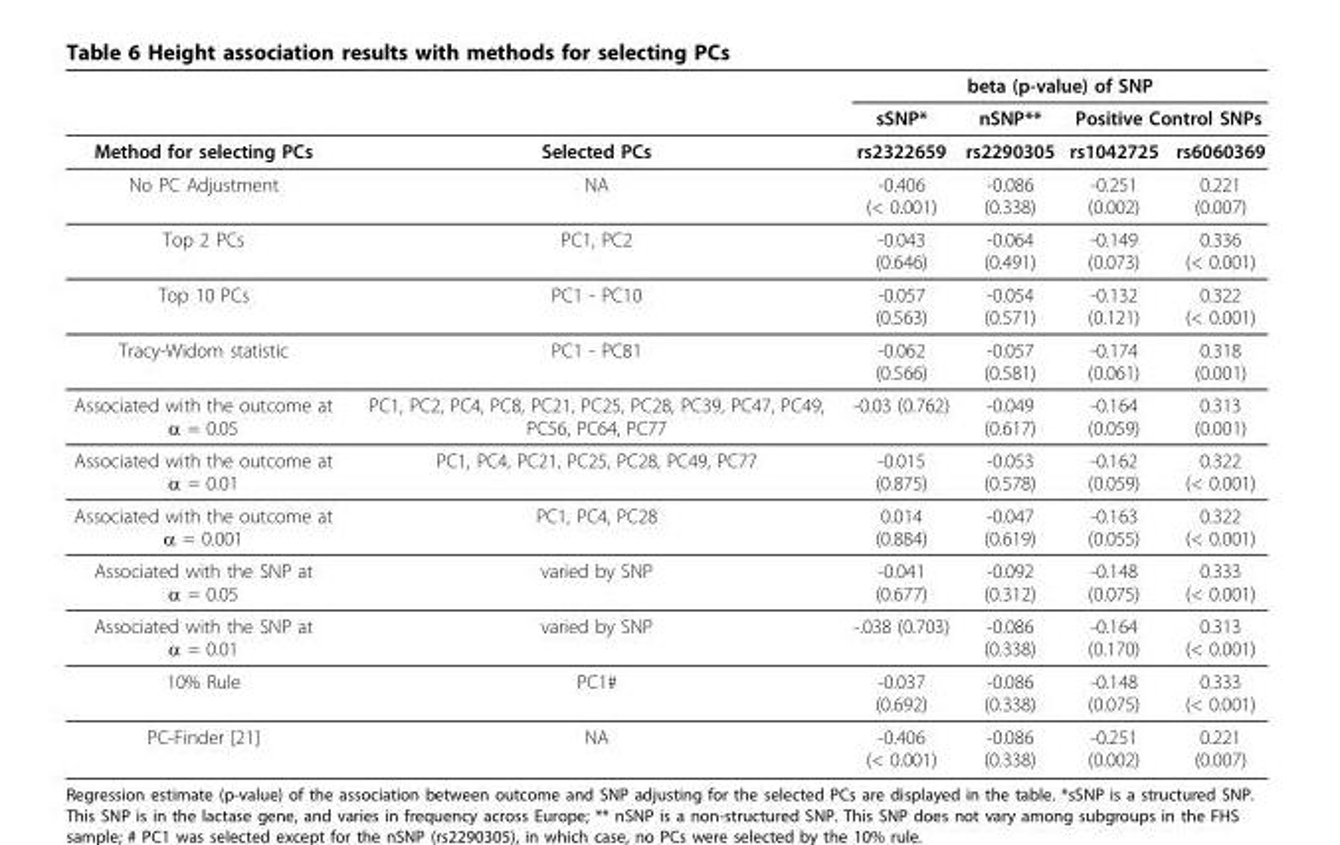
<table><thead><tr><td rowspan="3">Method for selecting PCs</td><td rowspan="3">Selected PCs</td><td colspan="4">beta (p-value) of SNP</td></tr><tr><td rowspan="2">sSNP* rs2322659</td><td rowspan="2">nSNP** rs2290305</td><td colspan="2">Positive Control SNPs</td></tr><tr><td>rs1042725</td><td>rs6060369</td></tr></thead><tbody><tr><td>No PC Adjustment</td><td>NA</td><td>-0.406 (&lt; 0.001)</td><td>-0.086 (0.338)</td><td>-0.251 (0.002)</td><td>0.221 (0.007)</td></tr><tr><td>Top 2 PCs</td><td>PC1, PC2</td><td>-0.043 (0.646)</td><td>-0.064 (0.491)</td><td>-0.149 (0.073)</td><td>0.336 (&lt; 0.001)</td></tr><tr><td>Top 10 PCs</td><td>PC1 - PC10</td><td>-0.057 (0.563)</td><td>-0.054 (0.571)</td><td>-0.132 (0.121)</td><td>0.322 (&lt; 0.001)</td></tr><tr><td>Tracy-Widom statistic</td><td>PC1 - PC81</td><td>-0.062 (0.566)</td><td>-0.057 (0.581)</td><td>-0.174 (0.061)</td><td>0.318 (0.001)</td></tr><tr><td>Associated with the outcome at α = 0.05</td><td>PC1, PC2, PC4, PC8, PC21, PC25, PC28, PC39, PC47, PC49, PC56, PC64, PC77</td><td>-0.03 (0.762)</td><td>-0.049 (0.617)</td><td>-0.164 (0.059)</td><td>0.313 (0.001)</td></tr><tr><td>Associated with the outcome at α = 0.01</td><td>PC1, PC4, PC21, PC25, PC28, PC49, PC77</td><td>-0.015 (0.875)</td><td>-0.053 (0.578)</td><td>-0.162 (0.059)</td><td>0.322 (&lt; 0.001)</td></tr><tr><td>Associated with the outcome at α = 0.001</td><td>PC1, PC4, PC28</td><td>0.014 (0.884)</td><td>-0.047 (0.619)</td><td>-0.163 (0.055)</td><td>0.322 (&lt; 0.001)</td></tr><tr><td>Associated with the SNP at α = 0.05</td><td>varied by SNP</td><td>-0.041 (0.677)</td><td>-0.092 (0.312)</td><td>-0.148 (0.075)</td><td>0.333 (&lt; 0.001)</td></tr><tr><td>Associated with the SNP at α = 0.01</td><td>varied by SNP</td><td>-.038 (0.703)</td><td>-0.086 (0.338)</td><td>-0.164 (0.170)</td><td>0.313 (&lt; 0.001)</td></tr><tr><td>10% Rule</td><td>PC1#</td><td>-0.037 (0.692)</td><td>-0.086 (0.338)</td><td>-0.148 (0.075)</td><td>0.333 (&lt; 0.001)</td></tr><tr><td>PC-Finder [21]</td><td>NA</td><td>-0.406 (&lt; 0.001)</td><td>-0.086 (0.338)</td><td>-0.251 (0.002)</td><td>0.221 (0.007)</td></tr></tbody></table>